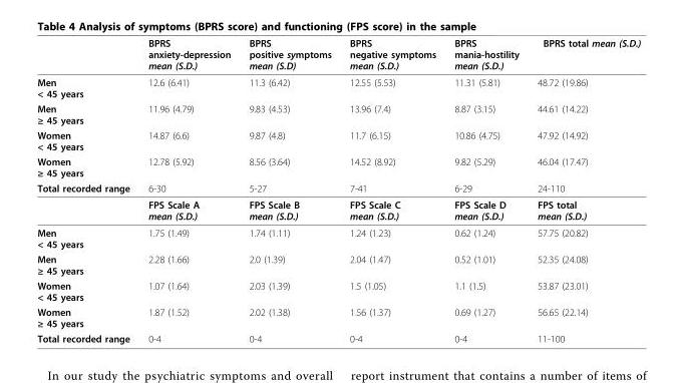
<table><thead><tr><td></td><td>BPRS anxiety-depression mean (S.D.)</td><td>BPRS positive symptoms mean (S.D)</td><td>BPRS negative symptoms mean (S.D.)</td><td>BPRS mania-hostility mean (S.D.)</td><td>BPRS total mean (S.D.)</td></tr></thead><tbody><tr><td>Men &lt; 45 years</td><td>12.6 (6.41)</td><td>11.3 (6.42)</td><td>12.55 (5.53)</td><td>11.31 (5.81)</td><td>48.72 (19.86)</td></tr><tr><td>Men ≥ 45 years</td><td>11.96 (4.79)</td><td>9.83 (4.53)</td><td>13.96 (7.4)</td><td>8.87 (3.15)</td><td>44.61 (14.22)</td></tr><tr><td>Women &lt; 45 years</td><td>14.87 (6.6)</td><td>9.87 (4.8)</td><td>11.7 (6.15)</td><td>10.86 (4.75)</td><td>47.92 (14.92)</td></tr><tr><td>Women ≥ 45 years</td><td>12.78 (5.92)</td><td>8.56 (3.64)</td><td>14.52 (8.92)</td><td>9.82 (5.29)</td><td>46.04 (17.47)</td></tr><tr><td rowspan="2">Total recorded range</td><td>6-30</td><td>5-27</td><td>7-41</td><td>6-29</td><td>24-110</td></tr><tr><td>FPS Scale A mean (S.D.)</td><td>FPS Scale B mean (S.D.)</td><td>FPS Scale C mean (S.D.)</td><td>FPS Scale D mean (S.D.)</td><td>FPS total mean (S.D.)</td></tr><tr><td>Men &lt; 45 years</td><td>1.75 (1.49)</td><td>1.74 (1.11)</td><td>1.24 (1.23)</td><td>0.62 (1.24)</td><td>57.75 (20.82)</td></tr><tr><td>Men ≥ 45 years</td><td>2.28 (1.66)</td><td>2.0 (1.39)</td><td>2.04 (1.47)</td><td>0.52 (1.01)</td><td>52.35 (24.08)</td></tr><tr><td>Women &lt; 45 years</td><td>1.07 (1.64)</td><td>2.03 (1.39)</td><td>1.5 (1.05)</td><td>1.1 (1.5)</td><td>53.87 (23.01)</td></tr><tr><td>Women ≥ 45 years</td><td>1.87 (1.52)</td><td>2.02 (1.38)</td><td>1.56 (1.37)</td><td>0.69 (1.27)</td><td>56.65 (22.14)</td></tr><tr><td>Total recorded range</td><td>0-4</td><td>0-4</td><td>0-4</td><td>0-4</td><td>11-100</td></tr></tbody></table>